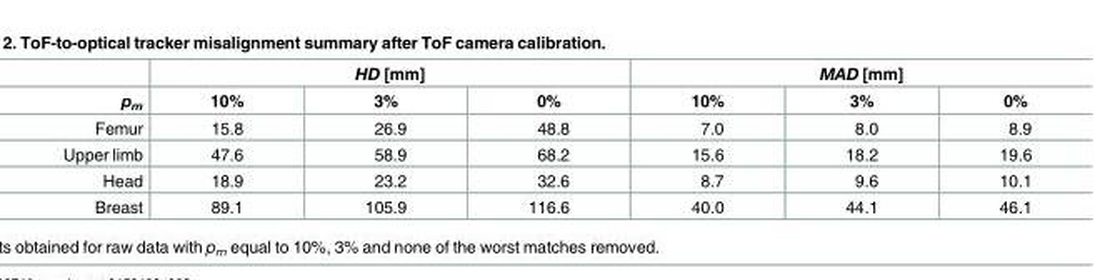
<table><thead><tr><td rowspan="2">p<sub>m</sub></td><td colspan="3">HD [mm]</td><td colspan="3">MAD [mm]</td></tr><tr><td>10%</td><td>3%</td><td>0%</td><td>10%</td><td>3%</td><td>0%</td></tr></thead><tbody><tr><td>Femur</td><td>15.8</td><td>26.9</td><td>48.8</td><td>7.0</td><td>8.0</td><td>8.9</td></tr><tr><td>Upper limb</td><td>47.6</td><td>58.9</td><td>68.2</td><td>15.6</td><td>18.2</td><td>19.6</td></tr><tr><td>Head</td><td>18.9</td><td>23.2</td><td>32.6</td><td>8.7</td><td>9.6</td><td>10.1</td></tr><tr><td>Breast</td><td>89.1</td><td>105.9</td><td>116.6</td><td>40.0</td><td>44.1</td><td>46.1</td></tr></tbody></table>